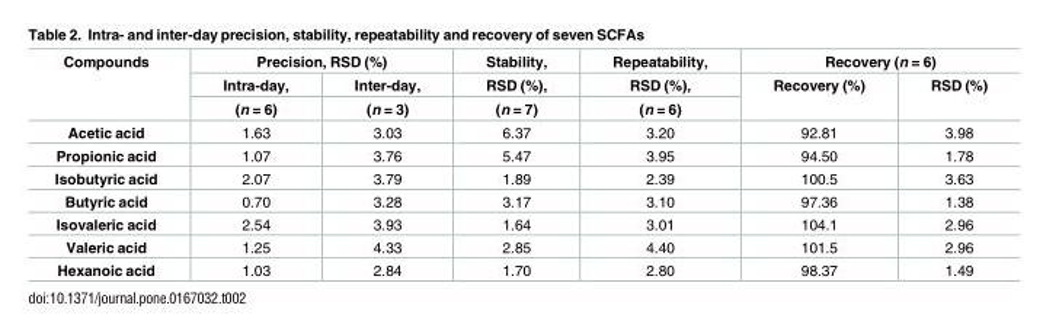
<table><thead><tr><td rowspan="3">Compounds</td><td colspan="2">Precision, RSD (%)</td><td rowspan="3">Stability, RSD (%), (n = 7)</td><td rowspan="3">Repeatability, RSD (%), (n = 6)</td><td colspan="2">Recovery (n = 6)</td></tr><tr><td rowspan="2">Intra-day, (n = 6)</td><td rowspan="2">Inter-day, (n = 3)</td><td rowspan="2">Recovery (%)</td><td rowspan="2">RSD (%)</td></tr><tr></tr></thead><tbody><tr><td>Acetic acid</td><td>1.63</td><td>3.03</td><td>6.37</td><td>3.20</td><td>92.81</td><td>3.98</td></tr><tr><td>Propionic acid</td><td>1.07</td><td>3.76</td><td>5.47</td><td>3.95</td><td>94.50</td><td>1.78</td></tr><tr><td>Isobutyric acid</td><td>2.07</td><td>3.79</td><td>1.89</td><td>2.39</td><td>100.5</td><td>3.63</td></tr><tr><td>Butyric acid</td><td>0.70</td><td>3.28</td><td>3.17</td><td>3.10</td><td>97.36</td><td>1.38</td></tr><tr><td>Isovaleric acid</td><td>2.54</td><td>3.93</td><td>1.64</td><td>3.01</td><td>104.1</td><td>2.96</td></tr><tr><td>Valeric acid</td><td>1.25</td><td>4.33</td><td>2.85</td><td>4.40</td><td>101.5</td><td>2.96</td></tr><tr><td>Hexanoic acid</td><td>1.03</td><td>2.84</td><td>1.70</td><td>2.80</td><td>98.37</td><td>1.49</td></tr></tbody></table>